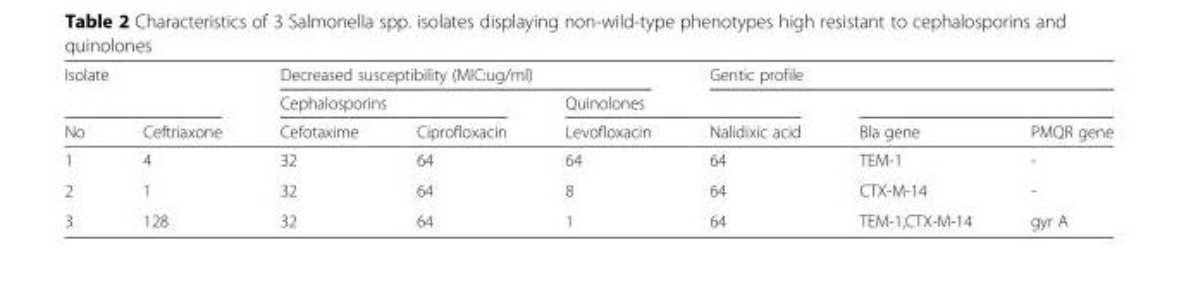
<table><thead><tr><td colspan="2">Isolate</td><td colspan="3">Decreased susceptibility (MIC:ug/ml)</td><td colspan="3">Gentic profile</td></tr><tr><td rowspan="2">No</td><td rowspan="2">Ceftriaxone</td><td colspan="2">Cephalosporins</td><td colspan="2">Quinolones</td><td rowspan="2">Bla gene</td><td rowspan="2">PMQR gene</td></tr><tr><td>Cefotaxime</td><td>Ciprofloxacin</td><td>Levofloxacin</td><td>Nalidixic acid</td></tr></thead><tbody><tr><td>1</td><td>4</td><td>32</td><td>64</td><td>64</td><td>64</td><td>TEM-1</td><td>-</td></tr><tr><td>2</td><td>1</td><td>32</td><td>64</td><td>8</td><td>64</td><td>CTX-M-14</td><td>-</td></tr><tr><td>3</td><td>128</td><td>32</td><td>64</td><td>1</td><td>64</td><td>TEM-1,CTX-M-14</td><td>gyr A</td></tr></tbody></table>